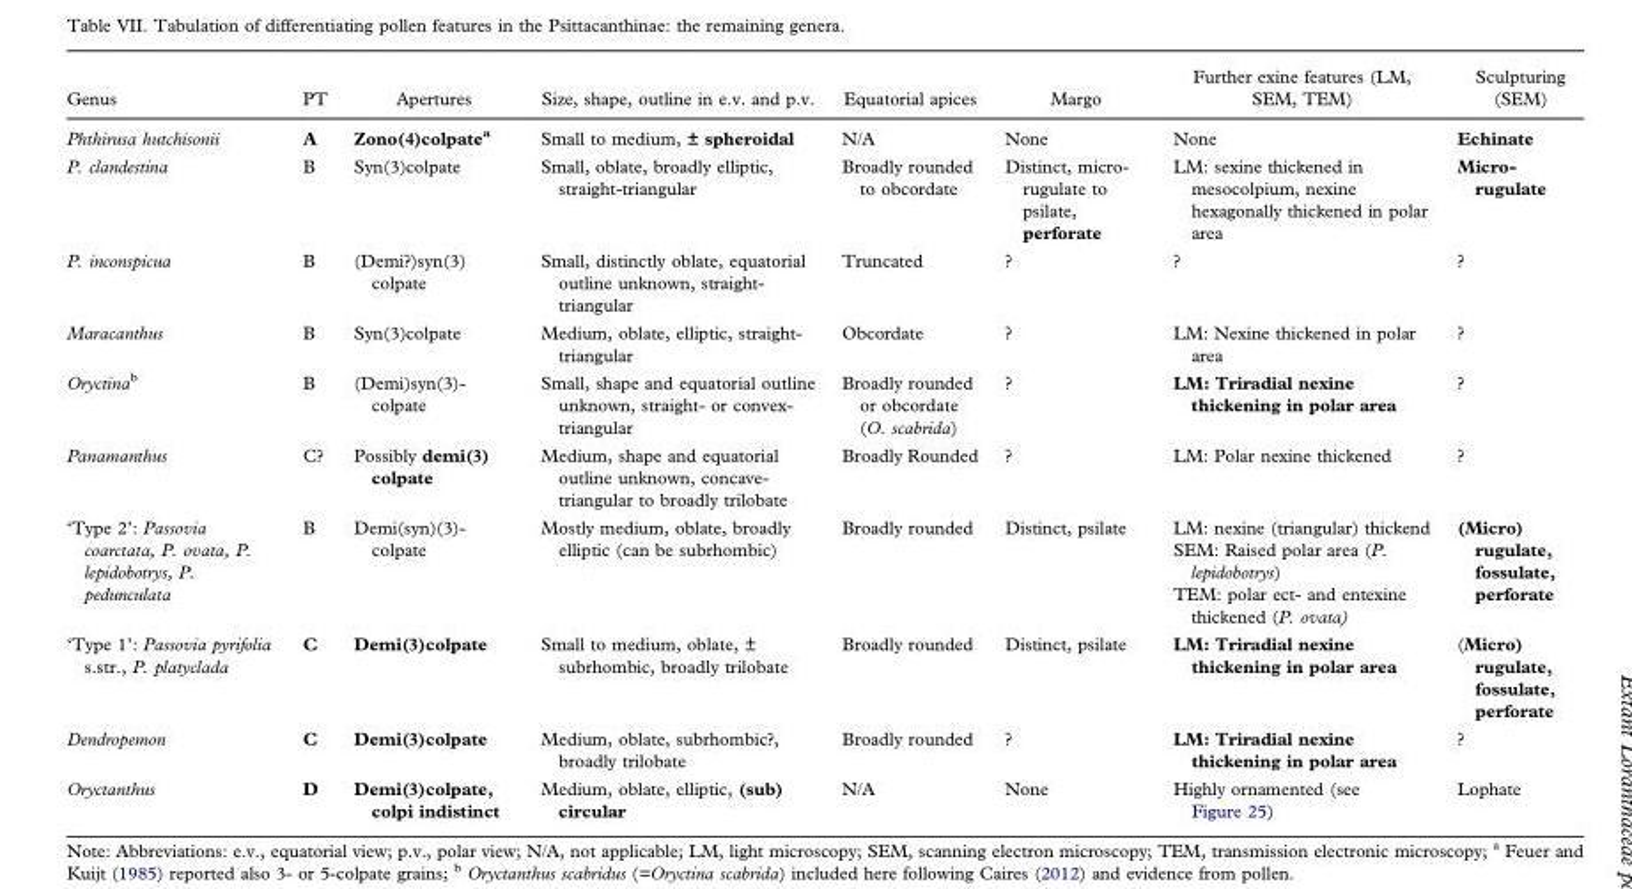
<table><thead><tr><td>Genus</td><td>PT</td><td>Apertures</td><td>Size, shape, outline in e.v. and p.v.</td><td>Equatorial apices</td><td>Margo</td><td>Further exine features (LM, SEM, TEM)</td><td>Sculpturing (SEM)</td></tr></thead><tbody><tr><td>Phthirusa hutchisonii</td><td>A</td><td>Zono(4)colpate<sup>a</sup></td><td>Small to medium, ± spheroidal</td><td>N/A</td><td>None</td><td>None</td><td>Echinate</td></tr><tr><td>P. clandestina</td><td>B</td><td>Syn(3)colpate</td><td>Small, oblate, broadly elliptic, straight-triangular</td><td>Broadly rounded to obcordate</td><td>Distinct, micro- rugulate to psilate, perforate</td><td>LM: sexine thickened in mesocolpium, nexine hexagonally thickened in polar area</td><td>Micro- rugulate</td></tr><tr><td>P. inconspicua</td><td>B</td><td>(Demi?)syn(3) colpate</td><td>Small, distinctly oblate, equatorial outline unknown, straight- triangular</td><td>Truncated</td><td>?</td><td>?</td><td>?</td></tr><tr><td>Maracanthus</td><td>B</td><td>Syn(3)colpate</td><td>Medium, oblate, elliptic, straight- triangular</td><td>Obcordate</td><td>?</td><td>LM: Nexine thickened in polar area</td><td>?</td></tr><tr><td>Oryctina<sup>b</sup></td><td>B</td><td>(Demi)syn(3)- colpate</td><td>Small, shape and equatorial outline unknown, straight- or convex- triangular</td><td>Broadly rounded or obcordate (O. scabrida)</td><td>?</td><td>LM: Triradial nexine thickening in polar area</td><td>?</td></tr><tr><td>Panamanthus</td><td>C?</td><td>Possibly demi(3) colpate</td><td>Medium, shape and equatorial outline unknown, concave- triangular to broadly trilobate</td><td>Broadly Rounded</td><td>?</td><td>LM: Polar nexine thickened</td><td>?</td></tr><tr><td>‘Type 2’: Passovia coarctata, P. ovata, P. lepidobotrys, P. pedunculata</td><td>B</td><td>Demi(syn)(3)- colpate</td><td>Mostly medium, oblate, broadly elliptic (can be subrhombic)</td><td>Broadly rounded</td><td>Distinct, psilate</td><td>LM: nexine (triangular) thickend SEM: Raised polar area (P. lepidobotrys) TEM: polar ect- and entexine thickened (P. ovata)</td><td>(Micro) rugulate, fossulate, perforate</td></tr><tr><td>‘Type 1’: Passovia pyrifolia s.str., P. platyclada</td><td>C</td><td>Demi(3)colpate</td><td>Small to medium, oblate, ± subrhombic, broadly trilobate</td><td>Broadly rounded</td><td>Distinct, psilate</td><td>LM: Triradial nexine thickening in polar area</td><td>(Micro) rugulate, fossulate, perforate</td></tr><tr><td>Dendropemon</td><td>C</td><td>Demi(3)colpate</td><td>Medium, oblate, subrhombic?, broadly trilobate</td><td>Broadly rounded</td><td>?</td><td>LM: Triradial nexine thickening in polar area</td><td>?</td></tr><tr><td>Oryctanthus</td><td>D</td><td>Demi(3)colpate, colpi indistinct</td><td>Medium, oblate, elliptic, (sub) circular</td><td>N/A</td><td>None</td><td>Highly ornamented (see Figure 25)</td><td>Lophate</td></tr></tbody></table>